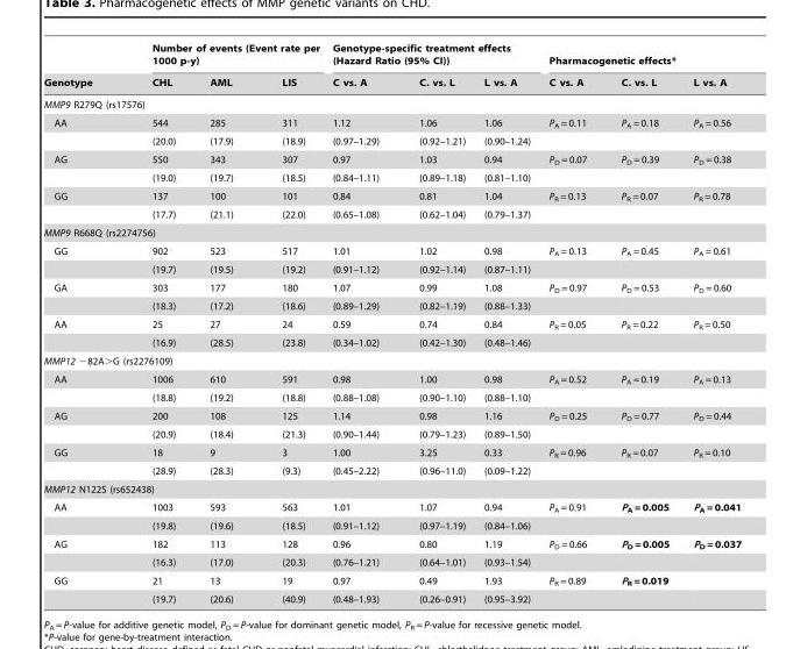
<table><thead><tr><td rowspan="2">Genotype</td><td colspan="3">Number of events (Event rate per 1000 p-y)</td><td colspan="3">Genotype-specific treatment effects (Hazard Ratio (95% CI))</td><td colspan="3">Pharmacogenetic effects*</td></tr><tr><td>CHL</td><td>AML</td><td>LIS</td><td>C vs. A</td><td>C. vs. L</td><td>L vs. A</td><td>C vs. A</td><td>C. vs. L</td><td>L vs. A</td></tr></thead><tbody><tr><td colspan="10">MMP9 R279Q (rs17576)</td></tr><tr><td rowspan="2">AA</td><td>544</td><td>285</td><td>311</td><td>1.12</td><td>1.06</td><td>1.06</td><td>P<sub>A</sub> = 0.11</td><td>P<sub>A</sub> = 0.18</td><td>P<sub>A</sub> = 0.56</td></tr><tr><td>(20.0)</td><td>(17.9)</td><td>(18.9)</td><td>(0.97–1.29)</td><td>(0.92–1.21)</td><td>(0.90–1.24)</td><td></td><td></td><td></td></tr><tr><td rowspan="2">AG</td><td>550</td><td>343</td><td>307</td><td>0.97</td><td>1.03</td><td>0.94</td><td>P<sub>D</sub> = 0.07</td><td>P<sub>D</sub> = 0.39</td><td>P<sub>D</sub> = 0.38</td></tr><tr><td>(19.0)</td><td>(19.7)</td><td>(18.5)</td><td>(0.84–1.11)</td><td>(0.89–1.18)</td><td>(0.81–1.10)</td><td></td><td></td><td></td></tr><tr><td rowspan="2">GG</td><td>137</td><td>100</td><td>101</td><td>0.84</td><td>0.81</td><td>1.04</td><td>P<sub>R</sub> = 0.13</td><td>P<sub>R</sub> = 0.07</td><td>P<sub>R</sub> = 0.78</td></tr><tr><td>(17.7)</td><td>(21.1)</td><td>(22.0)</td><td>(0.65–1.08)</td><td>(0.62–1.04)</td><td>(0.79–1.37)</td><td></td><td></td><td></td></tr><tr><td colspan="10">MMP9 R668Q (rs2274756)</td></tr><tr><td rowspan="2">GG</td><td>902</td><td>523</td><td>517</td><td>1.01</td><td>1.02</td><td>0.98</td><td>P<sub>A</sub> = 0.13</td><td>P<sub>A</sub> = 0.45</td><td>P<sub>A</sub> = 0.61</td></tr><tr><td>(19.7)</td><td>(19.5)</td><td>(19.2)</td><td>(0.91–1.12)</td><td>(0.92–1.14)</td><td>(0.87–1.11)</td><td></td><td></td><td></td></tr><tr><td rowspan="2">GA</td><td>303</td><td>177</td><td>180</td><td>1.07</td><td>0.99</td><td>1.08</td><td>P<sub>D</sub> = 0.97</td><td>P<sub>D</sub> = 0.53</td><td>P<sub>D</sub> = 0.60</td></tr><tr><td>(18.3)</td><td>(17.2)</td><td>(18.6)</td><td>(0.89–1.29)</td><td>(0.82–1.19)</td><td>(0.88–1.33)</td><td></td><td></td><td></td></tr><tr><td rowspan="2">AA</td><td>25</td><td>27</td><td>24</td><td>0.59</td><td>0.74</td><td>0.84</td><td>P<sub>R</sub> = 0.05</td><td>P<sub>R</sub> = 0.22</td><td>P<sub>R</sub> = 0.50</td></tr><tr><td>(16.9)</td><td>(28.5)</td><td>(23.8)</td><td>(0.34–1.02)</td><td>(0.42–1.30)</td><td>(0.48–1.46)</td><td></td><td></td><td></td></tr><tr><td colspan="10">MMP12 −82A&gt;G (rs2276109)</td></tr><tr><td rowspan="2">AA</td><td>1006</td><td>610</td><td>591</td><td>0.98</td><td>1.00</td><td>0.98</td><td>P<sub>A</sub> = 0.52</td><td>P<sub>A</sub> = 0.19</td><td>P<sub>A</sub> = 0.13</td></tr><tr><td>(18.8)</td><td>(19.2)</td><td>(18.8)</td><td>(0.88–1.08)</td><td>(0.90–1.10)</td><td>(0.88–1.10)</td><td></td><td></td><td></td></tr><tr><td rowspan="2">AG</td><td>200</td><td>108</td><td>125</td><td>1.14</td><td>0.98</td><td>1.16</td><td>P<sub>D</sub> = 0.25</td><td>P<sub>D</sub> = 0.77</td><td>P<sub>D</sub> = 0.44</td></tr><tr><td>(20.9)</td><td>(18.4)</td><td>(21.3)</td><td>(0.90–1.44)</td><td>(0.79–1.23)</td><td>(0.89–1.50)</td><td></td><td></td><td></td></tr><tr><td rowspan="2">GG</td><td>18</td><td>9</td><td>3</td><td>1.00</td><td>3.25</td><td>0.33</td><td>P<sub>R</sub> = 0.96</td><td>P<sub>R</sub> = 0.07</td><td>P<sub>R</sub> = 0.10</td></tr><tr><td>(28.9)</td><td>(28.3)</td><td>(9.3)</td><td>(0.45–2.22)</td><td>(0.96–11.0)</td><td>(0.09–1.22)</td><td></td><td></td><td></td></tr><tr><td colspan="10">MMP12 N122S (rs652438)</td></tr><tr><td rowspan="2">AA</td><td>1003</td><td>593</td><td>563</td><td>1.01</td><td>1.07</td><td>0.94</td><td>P<sub>A</sub> = 0.91</td><td>P<sub>A</sub> = 0.005</td><td>P<sub>A</sub> = 0.041</td></tr><tr><td>(19.8)</td><td>(19.6)</td><td>(18.5)</td><td>(0.91–1.12)</td><td>(0.97–1.19)</td><td>(0.84–1.06)</td><td></td><td></td><td></td></tr><tr><td rowspan="2">AG</td><td>182</td><td>113</td><td>128</td><td>0.96</td><td>0.80</td><td>1.19</td><td>P<sub>D</sub> = 0.66</td><td>P<sub>D</sub> = 0.005</td><td>P<sub>D</sub> = 0.037</td></tr><tr><td>(16.3)</td><td>(17.0)</td><td>(20.3)</td><td>(0.76–1.21)</td><td>(0.64–1.01)</td><td>(0.93–1.54)</td><td></td><td></td><td></td></tr><tr><td rowspan="2">GG</td><td>21</td><td>13</td><td>19</td><td>0.97</td><td>0.49</td><td>1.93</td><td>P<sub>R</sub> = 0.89</td><td>P<sub>R</sub> = 0.019</td><td></td></tr><tr><td>(19.7)</td><td>(20.6)</td><td>(40.9)</td><td>(0.48–1.93)</td><td>(0.26–0.91)</td><td>(0.95–3.92)</td><td></td><td></td><td></td></tr></tbody></table>